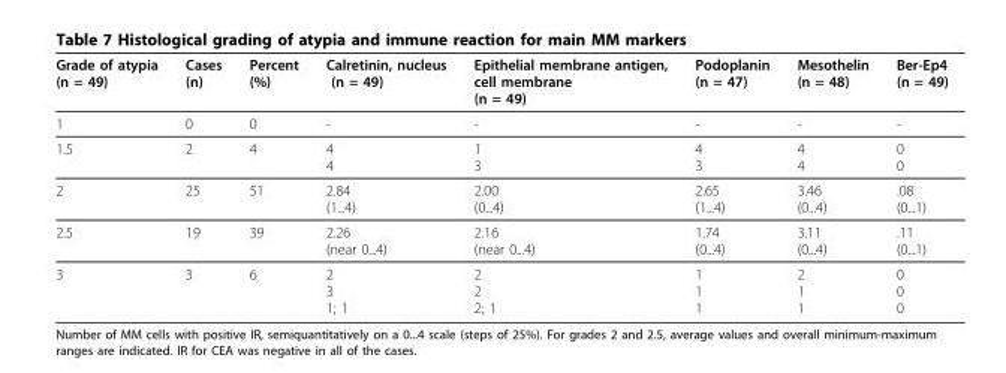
<table><thead><tr><td>Grade of atypia (n = 49)</td><td>Cases (n)</td><td>Percent (%)</td><td>Calretinin, nucleus (n = 49)</td><td>Epithelial membrane antigen, cell membrane (n = 49)</td><td>Podoplanin (n = 47)</td><td>Mesothelin (n = 48)</td><td>Ber-Ep4 (n = 49)</td></tr></thead><tbody><tr><td>1</td><td>0</td><td>0</td><td>-</td><td>-</td><td>-</td><td>-</td><td>-</td></tr><tr><td>1.5</td><td>2</td><td>4</td><td>4 4</td><td>1 3</td><td>4 3</td><td>4 4</td><td>0 0</td></tr><tr><td>2</td><td>25</td><td>51</td><td>2.84 (1...4)</td><td>2.00 (0...4)</td><td>2.65 (1...4)</td><td>3.46 (0...4)</td><td>.08 (0...1)</td></tr><tr><td>2.5</td><td>19</td><td>39</td><td>2.26 (near 0...4)</td><td>2.16 (near 0...4)</td><td>1.74 (0...4)</td><td>3.11 (0...4)</td><td>.11 (0...1)</td></tr><tr><td>3</td><td>3</td><td>6</td><td>2 3 1; 1</td><td>2 2 2; 1</td><td>1 1 1</td><td>2 1 1</td><td>0 0 0</td></tr></tbody></table>